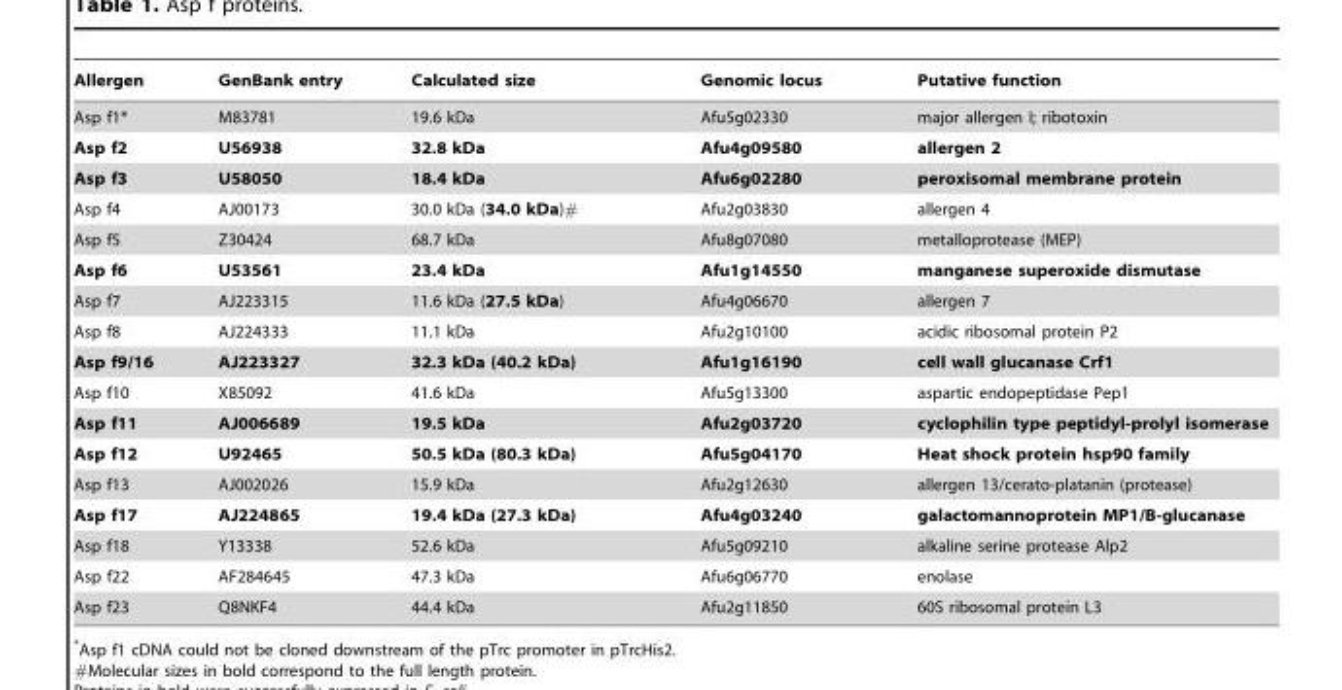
<table><thead><tr><td>Allergen</td><td>GenBank entry</td><td>Calculated size</td><td>Genomic locus</td><td>Putative function</td></tr></thead><tbody><tr><td>Asp f1*</td><td>M83781</td><td>19.6 kDa</td><td>Afu5g02330</td><td>major allergen I; ribotoxin</td></tr><tr><td>Asp f2</td><td>U56938</td><td>32.8 kDa</td><td>Afu4g09580</td><td>allergen 2</td></tr><tr><td>Asp f3</td><td>U58050</td><td>18.4 kDa</td><td>Afu6g02280</td><td>peroxisomal membrane protein</td></tr><tr><td>Asp f4</td><td>AJ00173</td><td>30.0 kDa (34.0 kDa)#</td><td>Afu2g03830</td><td>allergen 4</td></tr><tr><td>Asp f5</td><td>Z30424</td><td>68.7 kDa</td><td>Afu8g07080</td><td>metalloprotease (MEP)</td></tr><tr><td>Asp f6</td><td>U53561</td><td>23.4 kDa</td><td>Afu1g14550</td><td>manganese superoxide dismutase</td></tr><tr><td>Asp f7</td><td>AJ223315</td><td>11.6 kDa (27.5 kDa)</td><td>Afu4g06670</td><td>allergen 7</td></tr><tr><td>Asp f8</td><td>AJ224333</td><td>11.1 kDa</td><td>Afu2g10100</td><td>acidic ribosomal protein P2</td></tr><tr><td>Asp f9/16</td><td>AJ223327</td><td>32.3 kDa (40.2 kDa)</td><td>Afu1g16190</td><td>cell wall glucanase Crf1</td></tr><tr><td>Asp f10</td><td>X85092</td><td>41.6 kDa</td><td>Afu5g13300</td><td>aspartic endopeptidase Pep1</td></tr><tr><td>Asp f11</td><td>AJ006689</td><td>19.5 kDa</td><td>Afu2g03720</td><td>cyclophilin type peptidyl-prolyl isomerase</td></tr><tr><td>Asp f12</td><td>U92465</td><td>50.5 kDa (80.3 kDa)</td><td>Afu5g04170</td><td>Heat shock protein hsp90 family</td></tr><tr><td>Asp f13</td><td>AJ002026</td><td>15.9 kDa</td><td>Afu2g12630</td><td>allergen 13/cerato-platanin (protease)</td></tr><tr><td>Asp f17</td><td>AJ224865</td><td>19.4 kDa (27.3 kDa)</td><td>Afu4g03240</td><td>galactomannoprotein MP1/B-glucanase</td></tr><tr><td>Asp f18</td><td>Y13338</td><td>52.6 kDa</td><td>Afu5g09210</td><td>alkaline serine protease Alp2</td></tr><tr><td>Asp f22</td><td>AF284645</td><td>47.3 kDa</td><td>Afu6g06770</td><td>enolase</td></tr><tr><td>Asp f23</td><td>Q8NKF4</td><td>44.4 kDa</td><td>Afu2g11850</td><td>60S ribosomal protein L3</td></tr></tbody></table>